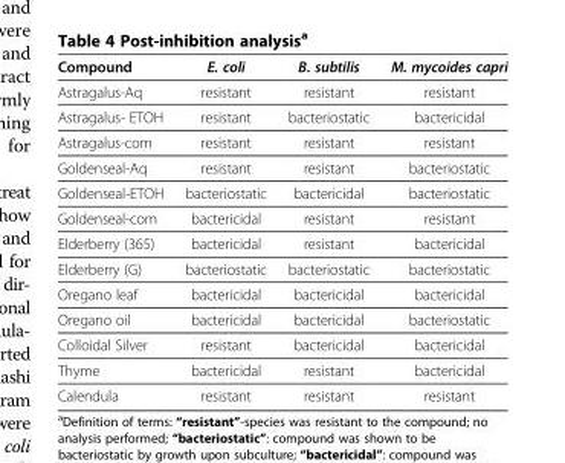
<table><thead><tr><td>Compound</td><td>E. coli</td><td>B. subtilis</td><td>M. mycoides capri</td></tr></thead><tbody><tr><td>Astragalus-Aq</td><td>resistant</td><td>resistant</td><td>resistant</td></tr><tr><td>Astragalus- ETOH</td><td>resistant</td><td>bacteriostatic</td><td>bactericidal</td></tr><tr><td>Astragalus-com</td><td>resistant</td><td>resistant</td><td>resistant</td></tr><tr><td>Goldenseal-Aq</td><td>resistant</td><td>resistant</td><td>bacteriostatic</td></tr><tr><td>Goldenseal-ETOH</td><td>bacteriostatic</td><td>bactericidal</td><td>bacteriostatic</td></tr><tr><td>Goldenseal-com</td><td>bactericidal</td><td>resistant</td><td>resistant</td></tr><tr><td>Elderberry (365)</td><td>bactericidal</td><td>resistant</td><td>bactericidal</td></tr><tr><td>Elderberry (G)</td><td>bacteriostatic</td><td>bacteriostatic</td><td>bacteriostatic</td></tr><tr><td>Oregano leaf</td><td>bactericidal</td><td>bactericidal</td><td>bactericidal</td></tr><tr><td>Oregano oil</td><td>bactericidal</td><td>bactericidal</td><td>bacteriostatic</td></tr><tr><td>Colloidal Silver</td><td>resistant</td><td>bactericidal</td><td>bactericidal</td></tr><tr><td>Thyme</td><td>bactericidal</td><td>resistant</td><td>bactericidal</td></tr><tr><td>Calendula</td><td>resistant</td><td>resistant</td><td>resistant</td></tr></tbody></table>